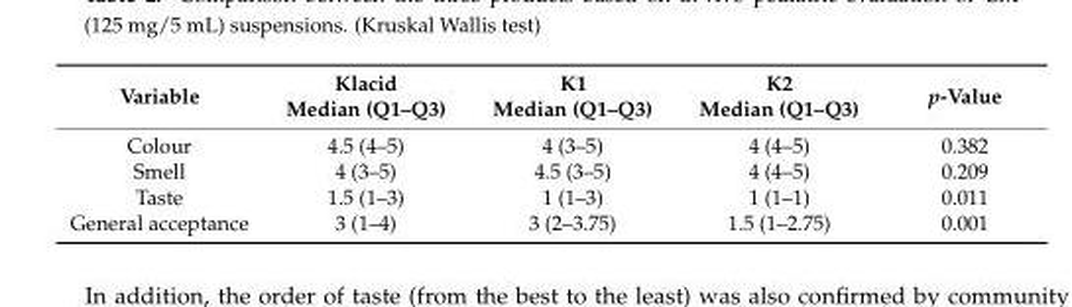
<table><thead><tr><td>Variable</td><td>Klacid Median (Q1–Q3)</td><td>K1 Median (Q1–Q3)</td><td>K2 Median (Q1–Q3)</td><td>p-Value</td></tr></thead><tbody><tr><td>Colour</td><td>4.5 (4–5)</td><td>4 (3–5)</td><td>4 (4–5)</td><td>0.382</td></tr><tr><td>Smell</td><td>4 (3–5)</td><td>4.5 (3–5)</td><td>4 (4–5)</td><td>0.209</td></tr><tr><td>Taste</td><td>1.5 (1–3)</td><td>1 (1–3)</td><td>1 (1–1)</td><td>0.011</td></tr><tr><td>General acceptance</td><td>3 (1–4)</td><td>3 (2–3.75)</td><td>1.5 (1–2.75)</td><td>0.001</td></tr></tbody></table>